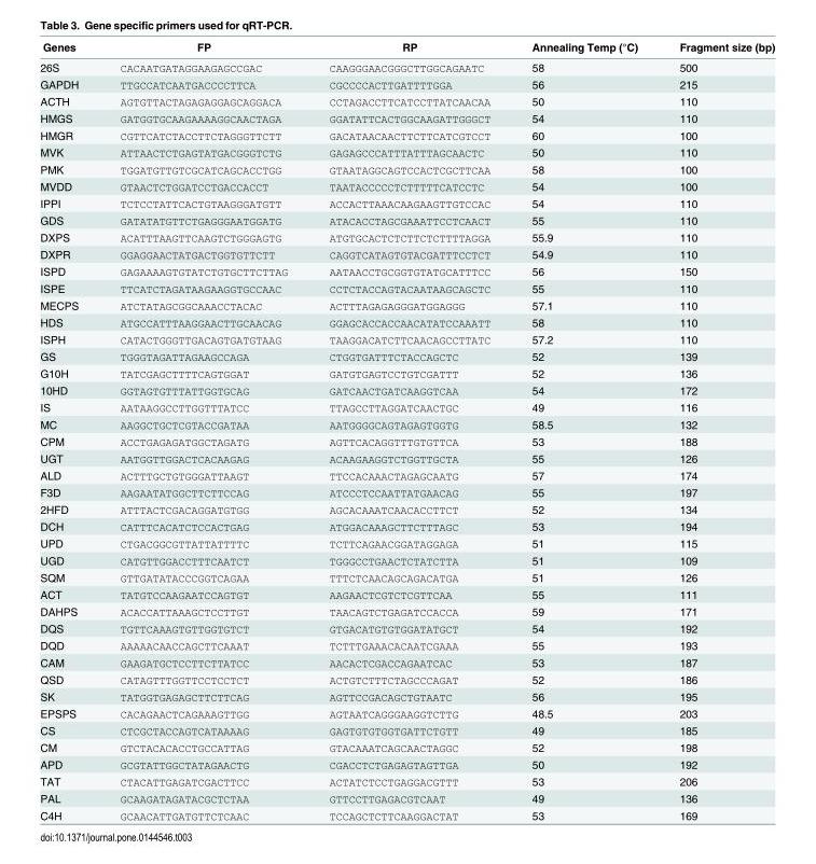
<table><thead><tr><td>Genes</td><td>FP</td><td>RP</td><td>Annealing Temp (°C)</td><td>Fragment size (bp)</td></tr></thead><tbody><tr><td>26S</td><td>CACAATGATAGGAAGAGCCGAC</td><td>CAAGGGAACGGGCTTGGCAGAATC</td><td>58</td><td>500</td></tr><tr><td>GAPDH</td><td>TTGCCATCAATGACCCCTTCA</td><td>CGCCCCACTTGATTTTGGA</td><td>56</td><td>215</td></tr><tr><td>ACTH</td><td>AGTGTTACTAGAGAGGAGCAGGACA</td><td>CCTAGACCTTCATCCTTATCAACAA</td><td>50</td><td>110</td></tr><tr><td>HMGS</td><td>GATGGTGCAAGAAAAGGCAACTAGA</td><td>GGATATTCACTGGCAAGATTGGGCT</td><td>54</td><td>110</td></tr><tr><td>HMGR</td><td>CGTTCATCTACCTTCTAGGGTTCTT</td><td>GACATAACAACTTCTTCATCGTCCT</td><td>60</td><td>100</td></tr><tr><td>MVK</td><td>ATTAACTCTGAGTATGACGGGTCTG</td><td>GAGAGCCCATTTATTTAGCAACTC</td><td>50</td><td>110</td></tr><tr><td>PMK</td><td>TGGATGTTGTCGCATCAGCACCTGG</td><td>GTAATAGGCAGTCCACTCGCTTCAA</td><td>58</td><td>100</td></tr><tr><td>MVDD</td><td>GTAACTCTGGATCCTGACCACCT</td><td>TAATACCCCCTCTTTTTCATCCTC</td><td>54</td><td>100</td></tr><tr><td>IPPI</td><td>TCTCCTATTCACTGTAAGGGATGTT</td><td>ACCACTTAAACAAGAAGTTGTCCAC</td><td>54</td><td>110</td></tr><tr><td>GDS</td><td>GATATATGTTCTGAGGGAATGGATG</td><td>ATACACCTAGCGAAATTCCTCAACT</td><td>55</td><td>110</td></tr><tr><td>DXPS</td><td>ACATTTAAGTTCAAGTCTGGGAGTG</td><td>ATGTGCACTCTCTTCTCTTTTAGGA</td><td>55.9</td><td>110</td></tr><tr><td>DXPR</td><td>GGAGGAACTATGACTGGTGTTCTT</td><td>CAGGTCATAGTGTACGATTTCCTCT</td><td>54.9</td><td>110</td></tr><tr><td>ISPD</td><td>GAGAAAAGTGTATCTGTGCTTCTTAG</td><td>AATAACCTGCGGTGTATGCATTTCC</td><td>56</td><td>150</td></tr><tr><td>ISPE</td><td>TTCATCTAGATAAGAAGGTGCCAAC</td><td>CCTCTACCAGTACAATAAGCAGCTC</td><td>55</td><td>110</td></tr><tr><td>MECPS</td><td>ATCTATAGCGGCAAACCTACAC</td><td>ACTTTAGAGAGGGATGGAGGG</td><td>57.1</td><td>110</td></tr><tr><td>HDS</td><td>ATGCCATTTAAGGAACTTGCAACAG</td><td>GGAGCACCACCAACATATCCAAATT</td><td>58</td><td>110</td></tr><tr><td>ISPH</td><td>CATACTGGGTTGACAGTGATGTAAG</td><td>TAAGGACATCTTCAACAGCCTTATC</td><td>57.2</td><td>110</td></tr><tr><td>GS</td><td>TGGGTAGATTAGAAGCCAGA</td><td>CTGGTGATTTCTACCAGCTC</td><td>52</td><td>139</td></tr><tr><td>G10H</td><td>TATCGAGCTTTTCAGTGGAT</td><td>GATGTGAGTCCTGTCGATTT</td><td>52</td><td>136</td></tr><tr><td>10HD</td><td>GGTAGTGTTTATTGGTGCAG</td><td>GATCAACTGATCAAGGTCAA</td><td>54</td><td>172</td></tr><tr><td>IS</td><td>AATAAGGCCTTGGTTTATCC</td><td>TTAGCCTTAGGATCAACTGC</td><td>49</td><td>116</td></tr><tr><td>MC</td><td>AAGGCTGCTCGTACCGATAA</td><td>AATGGGGCAGTAGAGTGGTG</td><td>58.5</td><td>132</td></tr><tr><td>CPM</td><td>ACCTGAGAGATGGCTAGATG</td><td>AGTTCACAGGTTTGTGTTCA</td><td>53</td><td>188</td></tr><tr><td>UGT</td><td>AATGGTTGGACTCACAAGAG</td><td>ACAAGAAGGTCTGGTTGCTA</td><td>55</td><td>126</td></tr><tr><td>ALD</td><td>ACTTTGCTGTGGGATTAAGT</td><td>TTCCACAAACTAGAGCAATG</td><td>57</td><td>174</td></tr><tr><td>F3D</td><td>AAGAATATGGCTTCTTCCAG</td><td>ATCCCTCCAATTATGAACAG</td><td>55</td><td>197</td></tr><tr><td>2HFD</td><td>ATTTACTCGACAGGATGTGG</td><td>AGCACAAATCAACACCTTCT</td><td>52</td><td>134</td></tr><tr><td>DCH</td><td>CATTTCACATCTCCACTGAG</td><td>ATGGACAAAGCTTCTTTAGC</td><td>53</td><td>194</td></tr><tr><td>UPD</td><td>CTGACGGCGTTATTATTTTC</td><td>TCTTCAGAACGGATAGGAGA</td><td>51</td><td>115</td></tr><tr><td>UGD</td><td>CATGTTGGACCTTTCAATCT</td><td>TGGGCCTGAACTCTATCTTA</td><td>51</td><td>109</td></tr><tr><td>SQM</td><td>GTTGATATACCCGGTCAGAA</td><td>TTTCTCAACAGCAGACATGA</td><td>51</td><td>126</td></tr><tr><td>ACT</td><td>TATGTCCAAGAATCCAGTGT</td><td>AAGAACTCGTCTCGTTCAA</td><td>55</td><td>111</td></tr><tr><td>DAHPS</td><td>ACACCATTAAAGCTCCTTGT</td><td>TAACAGTCTGAGATCCACCA</td><td>59</td><td>171</td></tr><tr><td>DQS</td><td>TGTTCAAAGTGTTGGTGTCT</td><td>GTGACATGTGTGGATATGCT</td><td>54</td><td>192</td></tr><tr><td>DQD</td><td>AAAAACAACCAGCTTCAAAT</td><td>TCTTTGAAACACAATCGAAA</td><td>55</td><td>193</td></tr><tr><td>CAM</td><td>GAAGATGCTCCTTCTTATCC</td><td>AACACTCGACCAGAATCAC</td><td>53</td><td>187</td></tr><tr><td>QSD</td><td>CATAGTTTGGTTCCTCCTCT</td><td>ACTGTCTTTCTAGCCCAGAT</td><td>52</td><td>186</td></tr><tr><td>SK</td><td>TATGGTGAGAGCTTCTTCAG</td><td>AGTTCCGACAGCTGTAATC</td><td>56</td><td>195</td></tr><tr><td>EPSPS</td><td>CACAGAACTCAGAAAGTTGG</td><td>AGTAATCAGGGAAGGTCTTG</td><td>48.5</td><td>203</td></tr><tr><td>CS</td><td>CTCGCTACCAGTCATAAAAG</td><td>GAGTGTGTGGTGATTCTGTT</td><td>49</td><td>185</td></tr><tr><td>CM</td><td>GTCTACACACCTGCCATTAG</td><td>GTACAAATCAGCAACTAGGC</td><td>52</td><td>198</td></tr><tr><td>APD</td><td>GCGTATTGGCTATAGAACTG</td><td>CGACCTCTGAGAGTAGTTGA</td><td>50</td><td>192</td></tr><tr><td>TAT</td><td>CTACATTGAGATCGACTTCC</td><td>ACTATCTCCTGAGGACGTTT</td><td>53</td><td>206</td></tr><tr><td>PAL</td><td>GCAAGATAGATACGCTCTAA</td><td>GTTCCTTGAGACGTCAAT</td><td>49</td><td>136</td></tr><tr><td>C4H</td><td>GCAACATTGATGTTCTCAAC</td><td>TCCAGCTCTTCAAGGACTAT</td><td>53</td><td>169</td></tr></tbody></table>